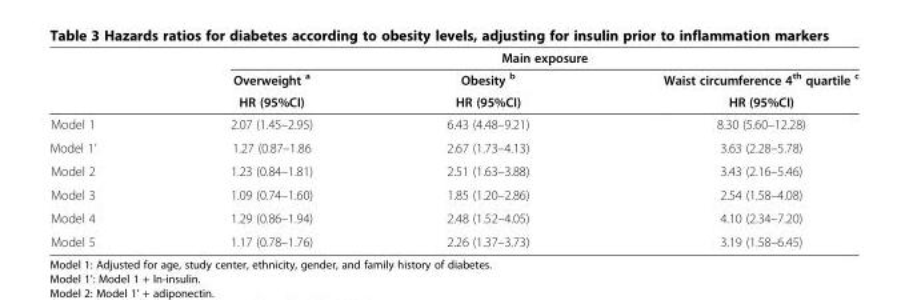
<table><thead><tr><td rowspan="3"></td><td colspan="3">Main exposure</td></tr><tr><td rowspan="2">Overweight <sup>a</sup> HR (95%CI)</td><td rowspan="2">Obesity <sup>b</sup> HR (95%CI)</td><td rowspan="2">Waist circumference 4<sup>th</sup> quartile <sup>c</sup> HR (95%CI)</td></tr><tr></tr></thead><tbody><tr><td>Model 1</td><td>2.07 (1.45–2.95)</td><td>6.43 (4.48–9.21)</td><td>8.30 (5.60–12.28)</td></tr><tr><td>Model 1’</td><td>1.27 (0.87–1.86</td><td>2.67 (1.73–4.13)</td><td>3.63 (2.28–5.78)</td></tr><tr><td>Model 2</td><td>1.23 (0.84–1.81)</td><td>2.51 (1.63–3.88)</td><td>3.43 (2.16–5.46)</td></tr><tr><td>Model 3</td><td>1.09 (0.74–1.60)</td><td>1.85 (1.20–2.86)</td><td>2.54 (1.58–4.08)</td></tr><tr><td>Model 4</td><td>1.29 (0.86–1.94)</td><td>2.48 (1.52–4.05)</td><td>4.10 (2.34–7.20)</td></tr><tr><td>Model 5</td><td>1.17 (0.78–1.76)</td><td>2.26 (1.37–3.73)</td><td>3.19 (1.58–6.45)</td></tr></tbody></table>